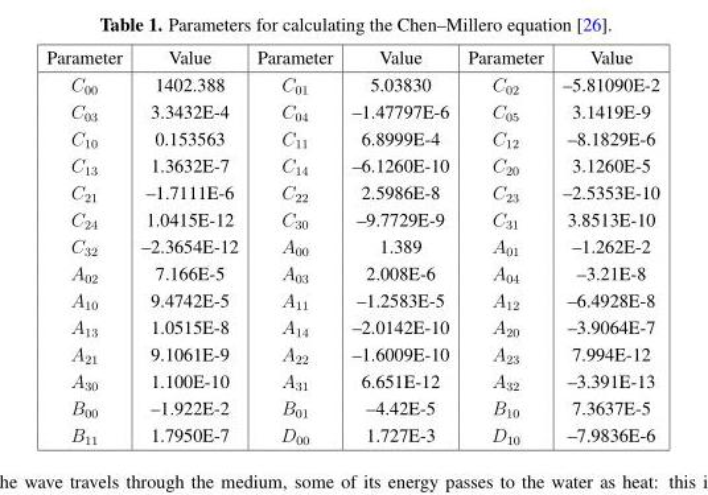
<table><thead><tr><td>Parameter</td><td>Value</td><td>Parameter</td><td>Value</td><td>Parameter</td><td>Value</td></tr></thead><tbody><tr><td>C<sub>00</sub></td><td>1402.388</td><td>C<sub>01</sub></td><td>5.03830</td><td>C<sub>02</sub></td><td>–5.81090E-2</td></tr><tr><td>C<sub>03</sub></td><td>3.3432E-4</td><td>C<sub>04</sub></td><td>–1.47797E-6</td><td>C<sub>05</sub></td><td>3.1419E-9</td></tr><tr><td>C<sub>10</sub></td><td>0.153563</td><td>C<sub>11</sub></td><td>6.8999E-4</td><td>C<sub>12</sub></td><td>–8.1829E-6</td></tr><tr><td>C<sub>13</sub></td><td>1.3632E-7</td><td>C<sub>14</sub></td><td>–6.1260E-10</td><td>C<sub>20</sub></td><td>3.1260E-5</td></tr><tr><td>C<sub>21</sub></td><td>–1.7111E-6</td><td>C<sub>22</sub></td><td>2.5986E-8</td><td>C<sub>23</sub></td><td>–2.5353E-10</td></tr><tr><td>C<sub>24</sub></td><td>1.0415E-12</td><td>C<sub>30</sub></td><td>–9.7729E-9</td><td>C<sub>31</sub></td><td>3.8513E-10</td></tr><tr><td>C<sub>32</sub></td><td>–2.3654E-12</td><td>A<sub>00</sub></td><td>1.389</td><td>A<sub>01</sub></td><td>–1.262E-2</td></tr><tr><td>A<sub>02</sub></td><td>7.166E-5</td><td>A<sub>03</sub></td><td>2.008E-6</td><td>A<sub>04</sub></td><td>–3.21E-8</td></tr><tr><td>A<sub>10</sub></td><td>9.4742E-5</td><td>A<sub>11</sub></td><td>–1.2583E-5</td><td>A<sub>12</sub></td><td>–6.4928E-8</td></tr><tr><td>A<sub>13</sub></td><td>1.0515E-8</td><td>A<sub>14</sub></td><td>–2.0142E-10</td><td>A<sub>20</sub></td><td>–3.9064E-7</td></tr><tr><td>A<sub>21</sub></td><td>9.1061E-9</td><td>A<sub>22</sub></td><td>–1.6009E-10</td><td>A<sub>23</sub></td><td>7.994E-12</td></tr><tr><td>A<sub>30</sub></td><td>1.100E-10</td><td>A<sub>31</sub></td><td>6.651E-12</td><td>A<sub>32</sub></td><td>–3.391E-13</td></tr><tr><td>B<sub>00</sub></td><td>–1.922E-2</td><td>B<sub>01</sub></td><td>–4.42E-5</td><td>B<sub>10</sub></td><td>7.3637E-5</td></tr><tr><td>B<sub>11</sub></td><td>1.7950E-7</td><td>D<sub>00</sub></td><td>1.727E-3</td><td>D<sub>10</sub></td><td>–7.9836E-6</td></tr></tbody></table>